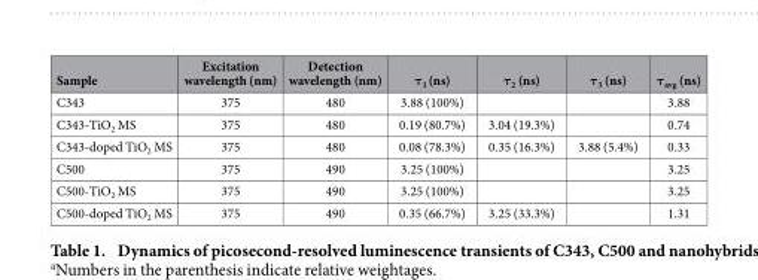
<table><thead><tr><td>Sample</td><td>Excitation wavelength (nm)</td><td>Detection wavelength (nm)</td><td>τ<sub>1</sub> (ns)</td><td>τ<sub>2</sub> (ns)</td><td>τ<sub>3</sub> (ns)</td><td>τ<sub>avg</sub> (ns)</td></tr></thead><tbody><tr><td>C343</td><td>375</td><td>480</td><td>3.88 (100%)</td><td></td><td></td><td>3.88</td></tr><tr><td>C343-TiO<sub>2</sub> MS</td><td>375</td><td>480</td><td>0.19 (80.7%)</td><td>3.04 (19.3%)</td><td></td><td>0.74</td></tr><tr><td>C343-doped TiO<sub>2</sub> MS</td><td>375</td><td>480</td><td>0.08 (78.3%)</td><td>0.35 (16.3%)</td><td>3.88 (5.4%)</td><td>0.33</td></tr><tr><td>C500</td><td>375</td><td>490</td><td>3.25 (100%)</td><td></td><td></td><td>3.25</td></tr><tr><td>C500-TiO<sub>2</sub> MS</td><td>375</td><td>490</td><td>3.25 (100%)</td><td></td><td></td><td>3.25</td></tr><tr><td>C500-doped TiO<sub>2</sub> MS</td><td>375</td><td>490</td><td>0.35 (66.7%)</td><td>3.25 (33.3%)</td><td></td><td>1.31</td></tr></tbody></table>